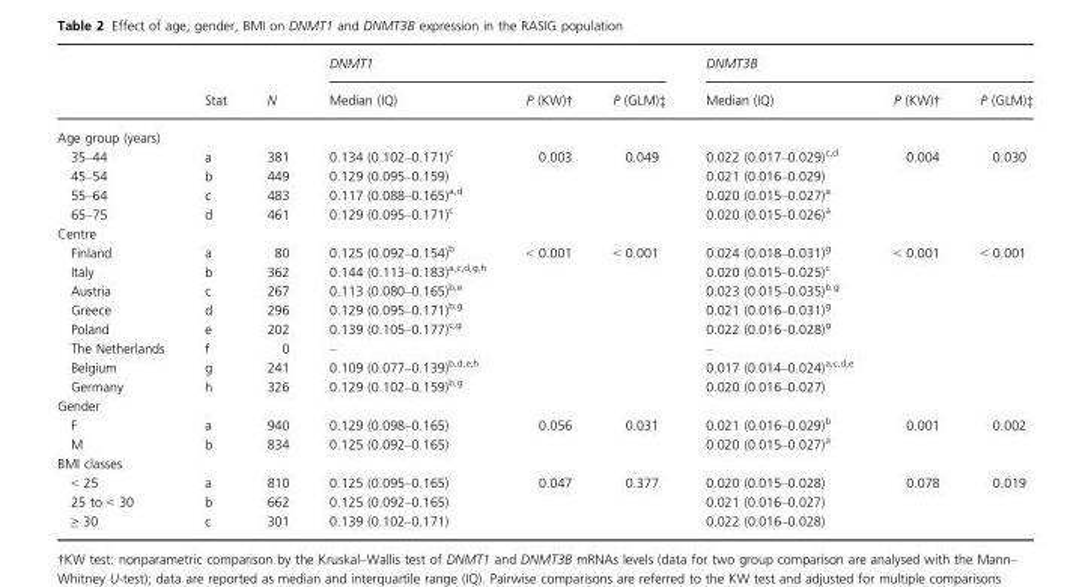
<table><thead><tr><td rowspan="2"></td><td rowspan="2">Stat</td><td rowspan="2">N</td><td colspan="3">DNMT1</td><td colspan="3">DNMT3B</td></tr><tr><td>Median (IQ)</td><td>P (KW)†</td><td>P (GLM)‡</td><td>Median (IQ)</td><td>P (KW)†</td><td>P (GLM)‡</td></tr></thead><tbody><tr><td colspan="9">Age group (years)</td></tr><tr><td>35–44</td><td>a</td><td>381</td><td>0.134 (0.102–0.171)<sup>c</sup></td><td rowspan="4">0.003</td><td rowspan="4">0.049</td><td>0.022 (0.017–0.029)<sup>c,d</sup></td><td rowspan="4">0.004</td><td rowspan="4">0.030</td></tr><tr><td>45–54</td><td>b</td><td>449</td><td>0.129 (0.095–0.159)</td><td>0.021 (0.016–0.029)</td></tr><tr><td>55–64</td><td>c</td><td>483</td><td>0.117 (0.088–0.165)<sup>a,d</sup></td><td>0.020 (0.015–0.027)<sup>a</sup></td></tr><tr><td>65–75</td><td>d</td><td>461</td><td>0.129 (0.095–0.171)<sup>c</sup></td><td>0.020 (0.015–0.026)<sup>a</sup></td></tr><tr><td colspan="9">Centre</td></tr><tr><td>Finland</td><td>a</td><td>80</td><td>0.125 (0.092–0.154)<sup>b</sup></td><td rowspan="8">&lt; 0.001</td><td rowspan="8">&lt; 0.001</td><td>0.024 (0.018–0.031)<sup>g</sup></td><td rowspan="8">&lt; 0.001</td><td rowspan="8">&lt; 0.001</td></tr><tr><td>Italy</td><td>b</td><td>362</td><td>0.144 (0.113–0.183)<sup>a,c,d,g,h</sup></td><td>0.020 (0.015–0.025)<sup>c</sup></td></tr><tr><td>Austria</td><td>c</td><td>267</td><td>0.113 (0.080–0.165)<sup>b,e</sup></td><td>0.023 (0.015–0.035)<sup>b.g</sup></td></tr><tr><td>Greece</td><td>d</td><td>296</td><td>0.129 (0.095–0.171)<sup>b,g</sup></td><td>0.021 (0.016–0.031)<sup>g</sup></td></tr><tr><td>Poland</td><td>e</td><td>202</td><td>0.139 (0.105–0.177)<sup>c,g</sup></td><td>0.022 (0.016–0.028)<sup>g</sup></td></tr><tr><td>The Netherlands</td><td>f</td><td>0</td><td>–</td><td>–</td></tr><tr><td>Belgium</td><td>g</td><td>241</td><td>0.109 (0.077–0.139)<sup>b,d,e,h</sup></td><td>0.017 (0.014–0.024)<sup>a,c,d,e</sup></td></tr><tr><td>Germany</td><td>h</td><td>326</td><td>0.129 (0.102–0.159)<sup>b,g</sup></td><td>0.020 (0.016–0.027)</td></tr><tr><td colspan="9">Gender</td></tr><tr><td>F</td><td>a</td><td>940</td><td>0.129 (0.098–0.165)</td><td rowspan="2">0.056</td><td rowspan="2">0.031</td><td>0.021 (0.016–0.029)<sup>b</sup></td><td rowspan="2">0.001</td><td rowspan="2">0.002</td></tr><tr><td>M</td><td>b</td><td>834</td><td>0.125 (0.092–0.165)</td><td>0.020 (0.015–0.027)<sup>a</sup></td></tr><tr><td colspan="9">BMI classes</td></tr><tr><td>&lt; 25</td><td>a</td><td>810</td><td>0.125 (0.095–0.165)</td><td rowspan="3">0.047</td><td rowspan="3">0.377</td><td>0.020 (0.015–0.028)</td><td rowspan="3">0.078</td><td rowspan="3">0.019</td></tr><tr><td>25 to &lt; 30</td><td>b</td><td>662</td><td>0.125 (0.092–0.165)</td><td>0.021 (0.016–0.027)</td></tr><tr><td>≥ 30</td><td>c</td><td>301</td><td>0.139 (0.102–0.171)</td><td>0.022 (0.016–0.028)</td></tr></tbody></table>